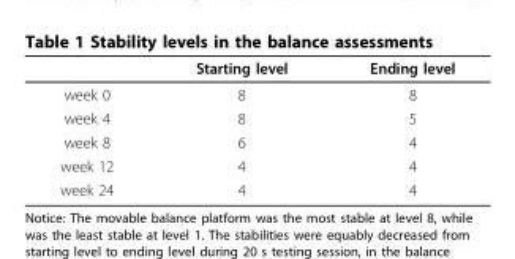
<table><thead><tr><td></td><td>Starting level</td><td>Ending level</td></tr></thead><tbody><tr><td>week 0</td><td>8</td><td>8</td></tr><tr><td>week 4</td><td>8</td><td>5</td></tr><tr><td>week 8</td><td>6</td><td>4</td></tr><tr><td>week 12</td><td>4</td><td>4</td></tr><tr><td>week 24</td><td>4</td><td>4</td></tr></tbody></table>